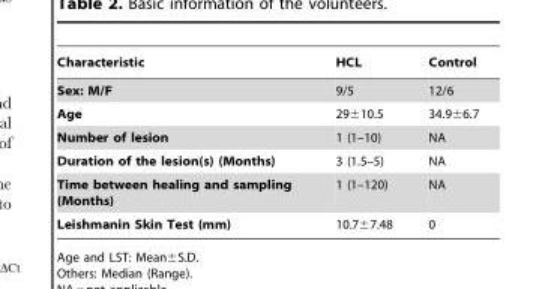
<table><thead><tr><td>Characteristic</td><td>HCL</td><td>Control</td></tr></thead><tbody><tr><td>Sex: M/F</td><td>9/5</td><td>12/6</td></tr><tr><td>Age</td><td>29±10.5</td><td>34.9±6.7</td></tr><tr><td>Number of lesion</td><td>1 (1–10)</td><td>NA</td></tr><tr><td>Duration of the lesion(s) (Months)</td><td>3 (1.5–5)</td><td>NA</td></tr><tr><td>Time between healing and sampling (Months)</td><td>1 (1–120)</td><td>NA</td></tr><tr><td>Leishmanin Skin Test (mm)</td><td>10.7±7.48</td><td>0</td></tr></tbody></table>